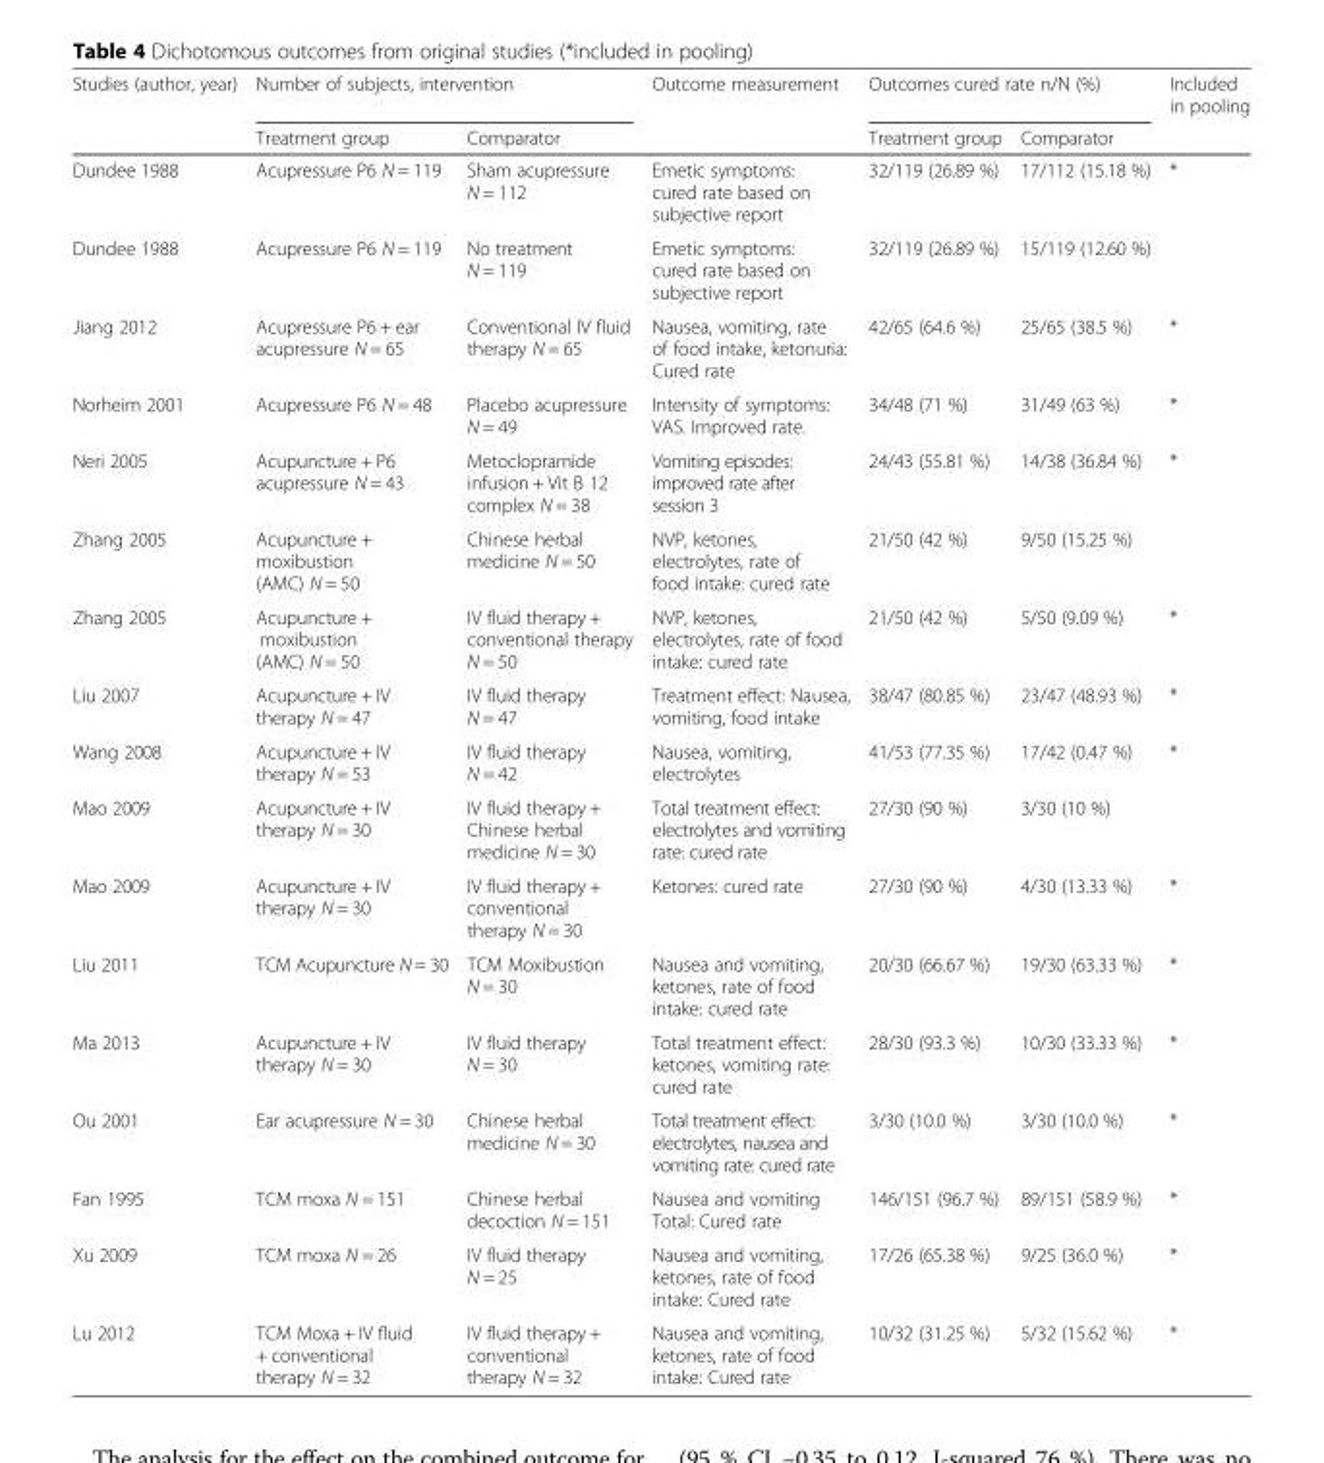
<table><thead><tr><td rowspan="2">Studies (author, year)</td><td colspan="2">Number of subjects, intervention</td><td rowspan="2">Outcome measurement</td><td colspan="2">Outcomes cured rate n/N (%)</td><td rowspan="2">Included in pooling</td></tr><tr><td>Treatment group</td><td>Comparator</td><td>Treatment group</td><td>Comparator</td></tr></thead><tbody><tr><td>Dundee 1988</td><td>Acupressure P6 N = 119</td><td>Sham acupressure N = 112</td><td>Emetic symptoms: cured rate based on subjective report</td><td>32/119 (26.89 %)</td><td>17/112 (15.18 %)</td><td>*</td></tr><tr><td>Dundee 1988</td><td>Acupressure P6 N = 119</td><td>No treatment N = 119</td><td>Emetic symptoms: cured rate based on subjective report</td><td>32/119 (26.89 %)</td><td>15/119 (12.60 %)</td><td></td></tr><tr><td>Jiang 2012</td><td>Acupressure P6 + ear acupressure N = 65</td><td>Conventional IV fluid therapy N = 65</td><td>Nausea, vomiting, rate of food intake, ketonuria: Cured rate</td><td>42/65 (64.6 %)</td><td>25/65 (38.5 %)</td><td>*</td></tr><tr><td>Norheim 2001</td><td>Acupressure P6 N = 48</td><td>Placebo acupressure N = 49</td><td>Intensity of symptoms: VAS. Improved rate.</td><td>34/48 (71 %)</td><td>31/49 (63 %)</td><td>*</td></tr><tr><td>Neri 2005</td><td>Acupuncture + P6 acupressure N = 43</td><td>Metoclopramide infusion + Vit B 12 complex N = 38</td><td>Vomiting episodes: improved rate after session 3</td><td>24/43 (55.81 %)</td><td>14/38 (36.84 %)</td><td>*</td></tr><tr><td>Zhang 2005</td><td>Acupuncture + moxibustion (AMC) N = 50</td><td>Chinese herbal medicine N = 50</td><td>NVP, ketones, electrolytes, rate of food intake: cured rate</td><td>21/50 (42 %)</td><td>9/50 (15.25 %)</td><td></td></tr><tr><td>Zhang 2005</td><td>Acupuncture + moxibustion (AMC) N = 50</td><td>IV fluid therapy + conventional therapy N = 50</td><td>NVP, ketones, electrolytes, rate of food intake: cured rate</td><td>21/50 (42 %)</td><td>5/50 (9.09 %)</td><td>*</td></tr><tr><td>Liu 2007</td><td>Acupuncture + IV therapy N = 47</td><td>IV fluid therapy N = 47</td><td>Treatment effect: Nausea, vomiting, food intake</td><td>38/47 (80.85 %)</td><td>23/47 (48.93 %)</td><td>*</td></tr><tr><td>Wang 2008</td><td>Acupuncture + IV therapy N = 53</td><td>IV fluid therapy N = 42</td><td>Nausea, vomiting, electrolytes</td><td>41/53 (77.35 %)</td><td>17/42 (0.47 %)</td><td>*</td></tr><tr><td>Mao 2009</td><td>Acupuncture + IV therapy N = 30</td><td>IV fluid therapy + Chinese herbal medicine N = 30</td><td>Total treatment effect: electrolytes and vomiting rate: cured rate</td><td>27/30 (90 %)</td><td>3/30 (10 %)</td><td></td></tr><tr><td>Mao 2009</td><td>Acupuncture + IV therapy N = 30</td><td>IV fluid therapy + conventional therapy N = 30</td><td>Ketones: cured rate</td><td>27/30 (90 %)</td><td>4/30 (13.33 %)</td><td>*</td></tr><tr><td>Liu 2011</td><td>TCM Acupuncture N = 30</td><td>TCM Moxibustion N = 30</td><td>Nausea and vomiting, ketones, rate of food intake: cured rate</td><td>20/30 (66.67 %)</td><td>19/30 (63.33 %)</td><td>*</td></tr><tr><td>Ma 2013</td><td>Acupuncture + IV therapy N = 30</td><td>IV fluid therapy N = 30</td><td>Total treatment effect: ketones, vomiting rate: cured rate</td><td>28/30 (93.3 %)</td><td>10/30 (33.33 %)</td><td>*</td></tr><tr><td>Ou 2001</td><td>Ear acupressure N = 30</td><td>Chinese herbal medicine N = 30</td><td>Total treatment effect: electrolytes, nausea and vomiting rate: cured rate</td><td>3/30 (10.0 %)</td><td>3/30 (10.0 %)</td><td>*</td></tr><tr><td>Fan 1995</td><td>TCM moxa N = 151</td><td>Chinese herbal decoction N = 151</td><td>Nausea and vomiting Total: Cured rate</td><td>146/151 (96.7 %)</td><td>89/151 (58.9 %)</td><td>*</td></tr><tr><td>Xu 2009</td><td>TCM moxa N = 26</td><td>IV fluid therapy N = 25</td><td>Nausea and vomiting, ketones, rate of food intake: Cured rate</td><td>17/26 (65.38 %)</td><td>9/25 (36.0 %)</td><td>*</td></tr><tr><td>Lu 2012</td><td>TCM Moxa + IV fluid + conventional therapy N = 32</td><td>IV fluid therapy + conventional therapy N = 32</td><td>Nausea and vomiting, ketones, rate of food intake: Cured rate</td><td>10/32 (31.25 %)</td><td>5/32 (15.62 %)</td><td>*</td></tr></tbody></table>